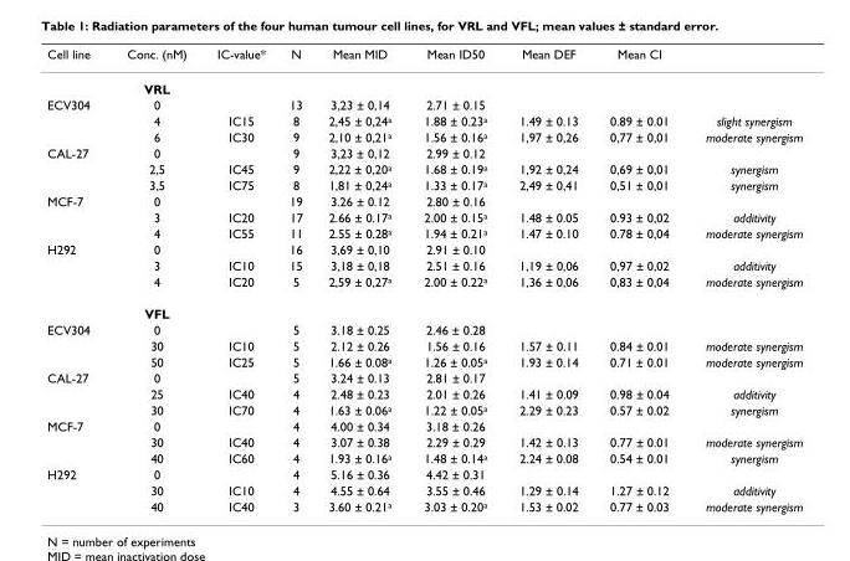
<table><thead><tr><td>Cell line</td><td>Conc. (nM)</td><td>IC-value*</td><td>N</td><td>Mean MID</td><td>Mean ID50</td><td>Mean DEF</td><td>Mean CI</td><td></td></tr></thead><tbody><tr><td></td><td>VRL</td><td></td><td></td><td></td><td></td><td></td><td></td><td></td></tr><tr><td rowspan="3">ECV304</td><td>0</td><td></td><td>13</td><td>3,23 ± 0,14</td><td>2.71 ± 0.15</td><td></td><td></td><td></td></tr><tr><td>4</td><td>IC15</td><td>8</td><td>2,45 ± 0,24<sup>a</sup></td><td>1.88 ± 0.23<sup>a</sup></td><td>1.49 ± 0.13</td><td>0.89 ± 0.01</td><td>slight synergism</td></tr><tr><td>6</td><td>IC30</td><td>9</td><td>2,10 ± 0,21<sup>a</sup></td><td>1.56 ± 0.16<sup>a</sup></td><td>1,97 ± 0,26</td><td>0,77 ± 0,01</td><td>moderate synergism</td></tr><tr><td rowspan="3">CAL-27</td><td>0</td><td></td><td>9</td><td>3,23 ± 0,12</td><td>2.99 ± 0.12</td><td></td><td></td><td></td></tr><tr><td>2,5</td><td>IC45</td><td>9</td><td>2,22 ± 0,20<sup>a</sup></td><td>1.68 ± 0.19<sup>a</sup></td><td>1,92 ± 0,24</td><td>0,69 ± 0,01</td><td>synergism</td></tr><tr><td>3,5</td><td>IC75</td><td>8</td><td>1,81 ± 0,24<sup>a</sup></td><td>1.33 ± 0.17<sup>a</sup></td><td>2,49 ± 0,41</td><td>0,51 ± 0,01</td><td>synergism</td></tr><tr><td rowspan="3">MCF-7</td><td>0</td><td></td><td>19</td><td>3.26 ± 0.12</td><td>2.80 ± 0.16</td><td></td><td></td><td></td></tr><tr><td>3</td><td>IC20</td><td>17</td><td>2.66 ± 0.17<sup>a</sup></td><td>2.00 ± 0.15<sup>a</sup></td><td>1.48 ± 0.05</td><td>0.93 ± 0,02</td><td>additivity</td></tr><tr><td>4</td><td>IC55</td><td>11</td><td>2.55 ± 0.28<sup>a</sup></td><td>1.94 ± 0.21<sup>a</sup></td><td>1.47 ± 0.10</td><td>0.78 ± 0,04</td><td>moderate synergism</td></tr><tr><td rowspan="4">H292</td><td>0</td><td></td><td>16</td><td>3,69 ± 0,10</td><td>2.91 ± 0.10</td><td></td><td></td><td></td></tr><tr><td>3</td><td>IC10</td><td>15</td><td>3,18 ± 0,18</td><td>2.51 ± 0.16</td><td>1,19 ± 0,06</td><td>0,97 ± 0,02</td><td>additivity</td></tr><tr><td>4</td><td>IC20</td><td>5</td><td>2,59 ± 0,27<sup>a</sup></td><td>2.00 ± 0.22<sup>a</sup></td><td>1,36 ± 0,06</td><td>0,83 ± 0,04</td><td>moderate synergism</td></tr><tr><td>VFL</td><td></td><td></td><td></td><td></td><td></td><td></td><td></td></tr><tr><td rowspan="3">ECV304</td><td>0</td><td></td><td>5</td><td>3.18 ± 0.25</td><td>2.46 ± 0.28</td><td></td><td></td><td></td></tr><tr><td>30</td><td>IC10</td><td>5</td><td>2.12 ± 0.26</td><td>1.56 ± 0.16</td><td>1.57 ± 0.11</td><td>0.84 ± 0.01</td><td>moderate synergism</td></tr><tr><td>50</td><td>IC25</td><td>5</td><td>1.66 ± 0.08<sup>a</sup></td><td>1.26 ± 0.05<sup>a</sup></td><td>1.93 ± 0.14</td><td>0.71 ± 0.01</td><td>moderate synergism</td></tr><tr><td rowspan="3">CAL-27</td><td>0</td><td></td><td>5</td><td>3.24 ± 0.13</td><td>2.81 ± 0.17</td><td></td><td></td><td></td></tr><tr><td>25</td><td>IC40</td><td>4</td><td>2.48 ± 0.23</td><td>2.01 ± 0.26</td><td>1.41 ± 0.09</td><td>0.98 ± 0.04</td><td>additivity</td></tr><tr><td>30</td><td>IC70</td><td>4</td><td>1.63 ± 0.06<sup>a</sup></td><td>1.22 ± 0.05<sup>a</sup></td><td>2.29 ± 0.23</td><td>0.57 ± 0.02</td><td>synergism</td></tr><tr><td rowspan="3">MCF-7</td><td>0</td><td></td><td>4</td><td>4.00 ± 0.34</td><td>3.18 ± 0.26</td><td></td><td></td><td></td></tr><tr><td>30</td><td>IC40</td><td>4</td><td>3.07 ± 0.38</td><td>2.29 ± 0.29</td><td>1.42 ± 0.13</td><td>0.77 ± 0.01</td><td>moderate synergism</td></tr><tr><td>40</td><td>IC60</td><td>4</td><td>1.93 ± 0.16<sup>a</sup></td><td>1.48 ± 0.14<sup>a</sup></td><td>2.24 ± 0.08</td><td>0.54 ± 0.01</td><td>synergism</td></tr><tr><td rowspan="3">H292</td><td>0</td><td></td><td>4</td><td>5.16 ± 0.36</td><td>4.42 ± 0.31</td><td></td><td></td><td></td></tr><tr><td>30</td><td>IC10</td><td>4</td><td>4.55 ± 0.64</td><td>3.55 ± 0.46</td><td>1.29 ± 0.14</td><td>1.27 ± 0.12</td><td>additivity</td></tr><tr><td>40</td><td>IC40</td><td>3</td><td>3.60 ± 0.21<sup>a</sup></td><td>3.03 ± 0.20<sup>a</sup></td><td>1.53 ± 0.02</td><td>0.77 ± 0.03</td><td>moderate synergism</td></tr></tbody></table>